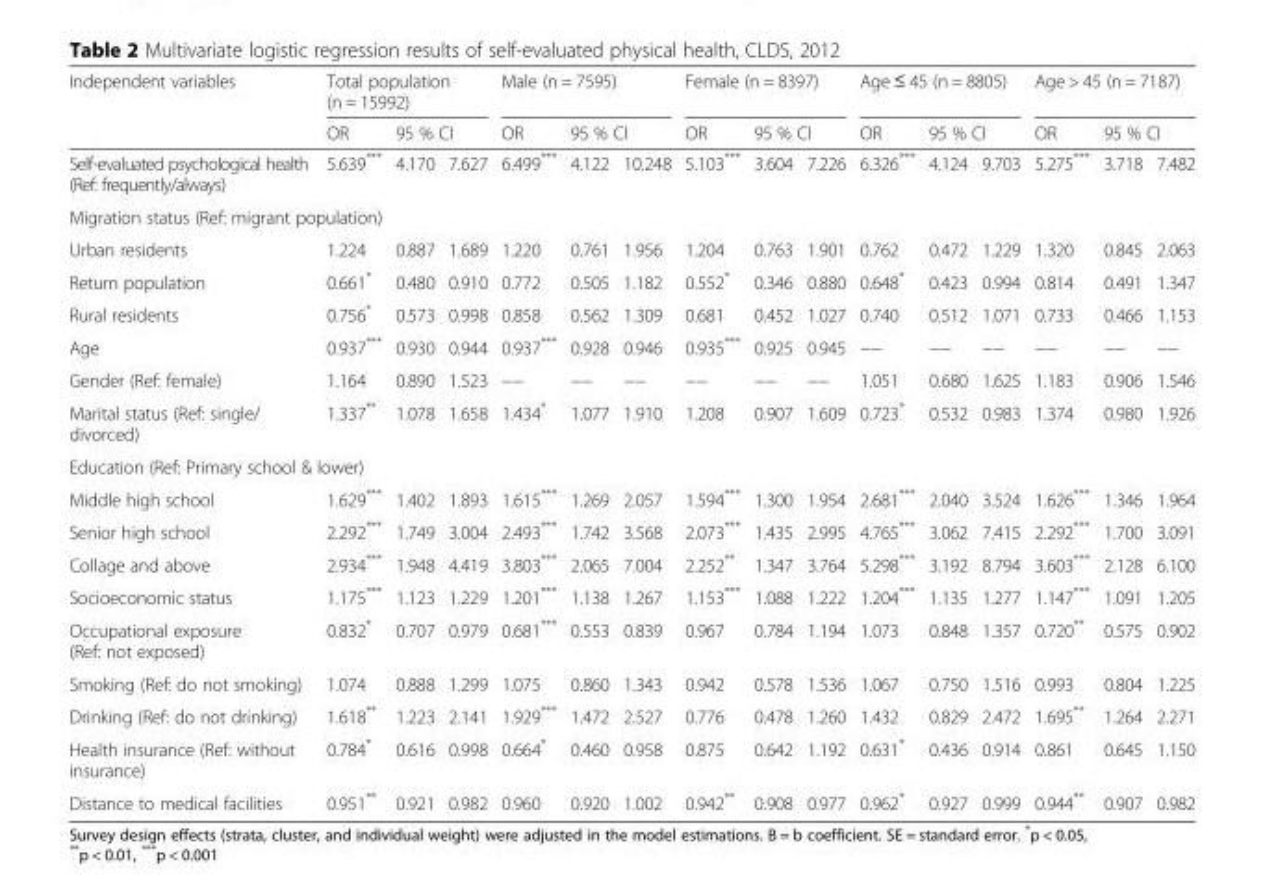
<table><thead><tr><td rowspan="3">Independent variables Self-evaluated psychological health (Ref: frequently/always)</td><td colspan="3">Total population (n = 15992)</td><td colspan="3">Male (n = 7595)</td><td colspan="3">Female (n = 8397)</td><td colspan="3">Age ≤ 45 (n = 8805)</td><td colspan="3">Age &gt; 45 (n = 7187)</td></tr><tr><td rowspan="2">OR 5.639***</td><td colspan="2">95 % CI</td><td rowspan="2">OR 6.499***</td><td colspan="2">95 % CI</td><td rowspan="2">OR 5.103***</td><td colspan="2">95 % CI</td><td rowspan="2">OR 6.326***</td><td colspan="2">95 % CI</td><td rowspan="2">OR 5.275***</td><td colspan="2">95 % CI</td></tr><tr><td>4.170</td><td>7.627</td><td>4.122</td><td>10.248</td><td>3.604</td><td>7.226</td><td>4.124</td><td>9.703</td><td>3.718</td><td>7.482</td></tr></thead><tbody><tr><td colspan="16">Migration status (Ref: migrant population)</td></tr><tr><td>Urban residents</td><td>1.224</td><td>0.887</td><td>1.689</td><td>1.220</td><td>0.761</td><td>1.956</td><td>1.204</td><td>0.763</td><td>1.901</td><td>0.762</td><td>0.472</td><td>1.229</td><td>1.320</td><td>0.845</td><td>2.063</td></tr><tr><td>Return population</td><td>0.661*</td><td>0.480</td><td>0.910</td><td>0.772</td><td>0.505</td><td>1.182</td><td>0.552*</td><td>0.346</td><td>0.880</td><td>0.648*</td><td>0.423</td><td>0.994</td><td>0.814</td><td>0.491</td><td>1.347</td></tr><tr><td>Rural residents</td><td>0.756*</td><td>0.573</td><td>0.998</td><td>0.858</td><td>0.562</td><td>1.309</td><td>0.681</td><td>0.452</td><td>1.027</td><td>0.740</td><td>0.512</td><td>1.071</td><td>0.733</td><td>0.466</td><td>1.153</td></tr><tr><td>Age</td><td>0.937***</td><td>0.930</td><td>0.944</td><td>0.937***</td><td>0.928</td><td>0.946</td><td>0.935***</td><td>0.925</td><td>0.945</td><td>−−</td><td>−−</td><td>−−</td><td>−−</td><td>−−</td><td>−−</td></tr><tr><td>Gender (Ref: female)</td><td>1.164</td><td>0.890</td><td>1.523</td><td>−−</td><td>−−</td><td>−−</td><td>−−</td><td>−−</td><td>−−</td><td>1.051</td><td>0.680</td><td>1.625</td><td>1.183</td><td>0.906</td><td>1.546</td></tr><tr><td>Marital status (Ref: single/ divorced)</td><td>1.337**</td><td>1.078</td><td>1.658</td><td>1.434*</td><td>1.077</td><td>1.910</td><td>1.208</td><td>0.907</td><td>1.609</td><td>0.723*</td><td>0.532</td><td>0.983</td><td>1.374</td><td>0.980</td><td>1.926</td></tr><tr><td colspan="16">Education (Ref: Primary school &amp; lower)</td></tr><tr><td>Middle high school</td><td>1.629***</td><td>1.402</td><td>1.893</td><td>1.615***</td><td>1.269</td><td>2.057</td><td>1.594***</td><td>1.300</td><td>1.954</td><td>2.681***</td><td>2.040</td><td>3.524</td><td>1.626***</td><td>1.346</td><td>1.964</td></tr><tr><td>Senior high school</td><td>2.292***</td><td>1.749</td><td>3.004</td><td>2.493***</td><td>1.742</td><td>3.568</td><td>2.073***</td><td>1.435</td><td>2.995</td><td>4.765***</td><td>3.062</td><td>7.415</td><td>2.292***</td><td>1.700</td><td>3.091</td></tr><tr><td>Collage and above</td><td>2.934***</td><td>1.948</td><td>4.419</td><td>3.803***</td><td>2.065</td><td>7.004</td><td>2.252**</td><td>1.347</td><td>3.764</td><td>5.298***</td><td>3.192</td><td>8.794</td><td>3.603***</td><td>2.128</td><td>6.100</td></tr><tr><td>Socioeconomic status</td><td>1.175***</td><td>1.123</td><td>1.229</td><td>1.201***</td><td>1.138</td><td>1.267</td><td>1.153***</td><td>1.088</td><td>1.222</td><td>1.204***</td><td>1.135</td><td>1.277</td><td>1.147***</td><td>1.091</td><td>1.205</td></tr><tr><td>Occupational exposure (Ref: not exposed)</td><td>0.832*</td><td>0.707</td><td>0.979</td><td>0.681***</td><td>0.553</td><td>0.839</td><td>0.967</td><td>0.784</td><td>1.194</td><td>1.073</td><td>0.848</td><td>1.357</td><td>0.720**</td><td>0.575</td><td>0.902</td></tr><tr><td>Smoking (Ref: do not smoking)</td><td>1.074</td><td>0.888</td><td>1.299</td><td>1.075</td><td>0.860</td><td>1.343</td><td>0.942</td><td>0.578</td><td>1.536</td><td>1.067</td><td>0.750</td><td>1.516</td><td>0.993</td><td>0.804</td><td>1.225</td></tr><tr><td>Drinking (Ref: do not drinking)</td><td>1.618**</td><td>1.223</td><td>2.141</td><td>1.929***</td><td>1.472</td><td>2.527</td><td>0.776</td><td>0.478</td><td>1.260</td><td>1.432</td><td>0.829</td><td>2.472</td><td>1.695**</td><td>1.264</td><td>2.271</td></tr><tr><td>Health insurance (Ref: without insurance)</td><td>0.784*</td><td>0.616</td><td>0.998</td><td>0.664*</td><td>0.460</td><td>0.958</td><td>0.875</td><td>0.642</td><td>1.192</td><td>0.631*</td><td>0.436</td><td>0.914</td><td>0.861</td><td>0.645</td><td>1.150</td></tr><tr><td>Distance to medical facilities</td><td>0.951**</td><td>0.921</td><td>0.982</td><td>0.960</td><td>0.920</td><td>1.002</td><td>0.942**</td><td>0.908</td><td>0.977</td><td>0.962*</td><td>0.927</td><td>0.999</td><td>0.944**</td><td>0.907</td><td>0.982</td></tr></tbody></table>